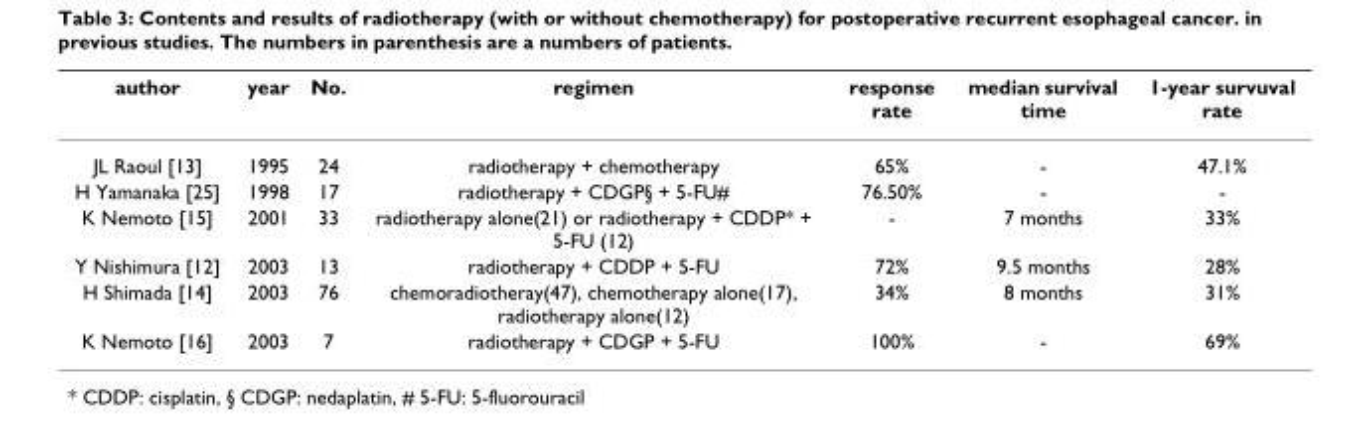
<table><thead><tr><td>author</td><td>year</td><td>No.</td><td>regimen</td><td>response rate</td><td>median survival time</td><td>1-year survuval rate</td></tr></thead><tbody><tr><td>JL Raoul [13]</td><td>1995</td><td>24</td><td>radiotherapy + chemotherapy</td><td>65%</td><td>-</td><td>47.1%</td></tr><tr><td>H Yamanaka [25]</td><td>1998</td><td>17</td><td>radiotherapy + CDGP§ + 5-FU#</td><td>76.50%</td><td>-</td><td>-</td></tr><tr><td>K Nemoto [15]</td><td>2001</td><td>33</td><td>radiotherapy alone(21) or radiotherapy + CDDP* + 5-FU (12)</td><td>-</td><td>7 months</td><td>33%</td></tr><tr><td>Y Nishimura [12]</td><td>2003</td><td>13</td><td>radiotherapy + CDDP + 5-FU</td><td>72%</td><td>9.5 months</td><td>28%</td></tr><tr><td>H Shimada [14]</td><td>2003</td><td>76</td><td>chemoradiotheray(47), chemotherapy alone(17), radiotherapy alone(12)</td><td>34%</td><td>8 months</td><td>31%</td></tr><tr><td>K Nemoto [16]</td><td>2003</td><td>7</td><td>radiotherapy + CDGP + 5-FU</td><td>100%</td><td>-</td><td>69%</td></tr></tbody></table>